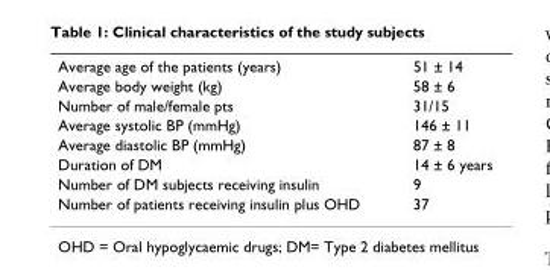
<table><tbody><tr><td>Average age of the patients (years)</td><td>51 ± 14</td></tr><tr><td>Average body weight (kg)</td><td>58 ± 6</td></tr><tr><td>Number of male/female pts</td><td>31/15</td></tr><tr><td>Average systolic BP (mmHg)</td><td>146 ± 11</td></tr><tr><td>Average diastolic BP (mmHg)</td><td>87 ± 8</td></tr><tr><td>Duration of DM</td><td>14 ± 6 years</td></tr><tr><td>Number of DM subjects receiving insulin</td><td>9</td></tr><tr><td>Number of patients receiving insulin plus OHD</td><td>37</td></tr></tbody></table>